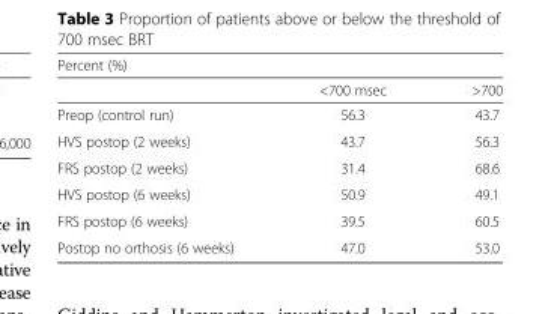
<table><thead><tr><td colspan="3">Percent (%)</td></tr><tr><td></td><td>&lt;700 msec</td><td>&gt;700</td></tr></thead><tbody><tr><td>Preop (control run)</td><td>56.3</td><td>43.7</td></tr><tr><td>HVS postop (2 weeks)</td><td>43.7</td><td>56.3</td></tr><tr><td>FRS postop (2 weeks)</td><td>31.4</td><td>68.6</td></tr><tr><td>HVS postop (6 weeks)</td><td>50.9</td><td>49.1</td></tr><tr><td>FRS postop (6 weeks)</td><td>39.5</td><td>60.5</td></tr><tr><td>Postop no orthosis (6 weeks)</td><td>47.0</td><td>53.0</td></tr></tbody></table>